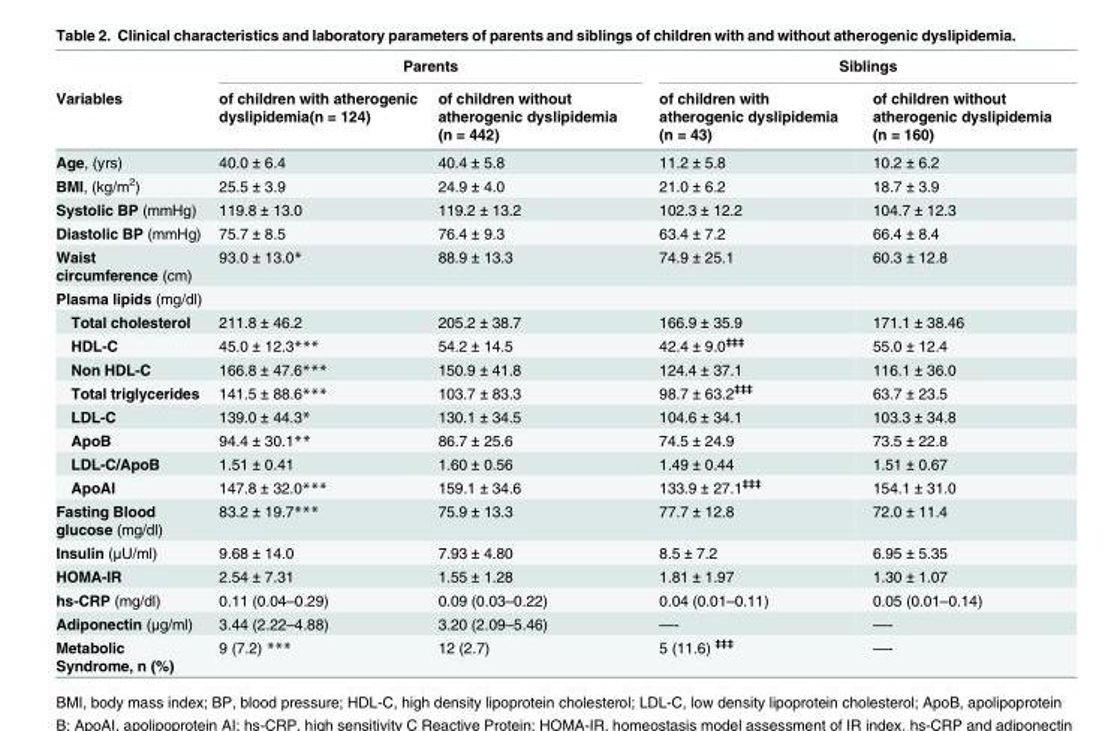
<table><thead><tr><td rowspan="2">Variables</td><td colspan="2">Parents</td><td colspan="2">Siblings</td></tr><tr><td>of children with atherogenic dyslipidemia(n = 124)</td><td>of children without atherogenic dyslipidemia (n = 442)</td><td>of children with atherogenic dyslipidemia (n = 43)</td><td>of children without atherogenic dyslipidemia (n = 160)</td></tr></thead><tbody><tr><td>Age, (yrs)</td><td>40.0 ± 6.4</td><td>40.4 ± 5.8</td><td>11.2 ± 5.8</td><td>10.2 ± 6.2</td></tr><tr><td>BMI, (kg/m<sup>2</sup>)</td><td>25.5 ± 3.9</td><td>24.9 ± 4.0</td><td>21.0 ± 6.2</td><td>18.7 ± 3.9</td></tr><tr><td>Systolic BP (mmHg)</td><td>119.8 ± 13.0</td><td>119.2 ± 13.2</td><td>102.3 ± 12.2</td><td>104.7 ± 12.3</td></tr><tr><td>Diastolic BP (mmHg)</td><td>75.7 ± 8.5</td><td>76.4 ± 9.3</td><td>63.4 ± 7.2</td><td>66.4 ± 8.4</td></tr><tr><td>Waist circumference (cm)</td><td>93.0 ± 13.0*</td><td>88.9 ± 13.3</td><td>74.9 ± 25.1</td><td>60.3 ± 12.8</td></tr><tr><td colspan="5">Plasma lipids (mg/dl)</td></tr><tr><td>Total cholesterol</td><td>211.8 ± 46.2</td><td>205.2 ± 38.7</td><td>166.9 ± 35.9</td><td>171.1 ± 38.46</td></tr><tr><td>HDL-C</td><td>45.0 ± 12.3***</td><td>54.2 ± 14.5</td><td>42.4 ± 9.0<sup>‡‡‡</sup></td><td>55.0 ± 12.4</td></tr><tr><td>Non HDL-C</td><td>166.8 ± 47.6***</td><td>150.9 ± 41.8</td><td>124.4 ± 37.1</td><td>116.1 ± 36.0</td></tr><tr><td>Total triglycerides</td><td>141.5 ± 88.6***</td><td>103.7 ± 83.3</td><td>98.7 ± 63.2<sup>‡‡‡</sup></td><td>63.7 ± 23.5</td></tr><tr><td>LDL-C</td><td>139.0 ± 44.3*</td><td>130.1 ± 34.5</td><td>104.6 ± 34.1</td><td>103.3 ± 34.8</td></tr><tr><td>ApoB</td><td>94.4 ± 30.1**</td><td>86.7 ± 25.6</td><td>74.5 ± 24.9</td><td>73.5 ± 22.8</td></tr><tr><td>LDL-C/ApoB</td><td>1.51 ± 0.41</td><td>1.60 ± 0.56</td><td>1.49 ± 0.44</td><td>1.51 ± 0.67</td></tr><tr><td>ApoAI</td><td>147.8 ± 32.0***</td><td>159.1 ± 34.6</td><td>133.9 ± 27.1<sup>‡‡‡</sup></td><td>154.1 ± 31.0</td></tr><tr><td>Fasting Blood glucose (mg/dl)</td><td>83.2 ± 19.7***</td><td>75.9 ± 13.3</td><td>77.7 ± 12.8</td><td>72.0 ± 11.4</td></tr><tr><td>Insulin (μU/ml)</td><td>9.68 ± 14.0</td><td>7.93 ± 4.80</td><td>8.5 ± 7.2</td><td>6.95 ± 5.35</td></tr><tr><td>HOMA-IR</td><td>2.54 ± 7.31</td><td>1.55 ± 1.28</td><td>1.81 ± 1.97</td><td>1.30 ± 1.07</td></tr><tr><td>hs-CRP (mg/dl)</td><td>0.11 (0.04–0.29)</td><td>0.09 (0.03–0.22)</td><td>0.04 (0.01–0.11)</td><td>0.05 (0.01–0.14)</td></tr><tr><td>Adiponectin (μg/ml)</td><td>3.44 (2.22–4.88)</td><td>3.20 (2.09–5.46)</td><td>—-</td><td>—-</td></tr><tr><td>Metabolic Syndrome, n (%)</td><td>9 (7.2) ***</td><td>12 (2.7)</td><td>5 (11.6) <sup>‡‡‡</sup></td><td>—-</td></tr></tbody></table>